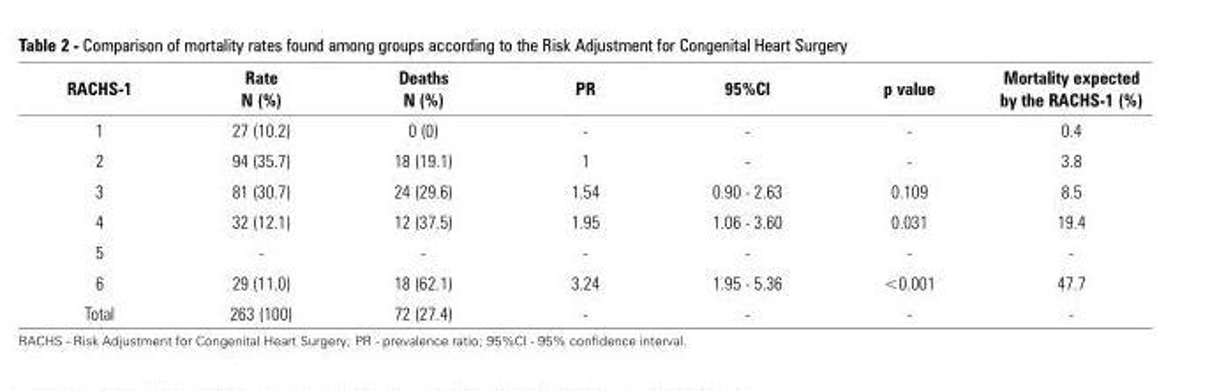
<table><thead><tr><td>RACHS-1</td><td>Rate N (%)</td><td>Deaths N (%)</td><td>PR</td><td>95%CI</td><td>p value</td><td>Mortality expected by the RACHS-1 (%)</td></tr></thead><tbody><tr><td>1</td><td>27 (10.2)</td><td>0 (0)</td><td>-</td><td>-</td><td>-</td><td>0.4</td></tr><tr><td>2</td><td>94 (35.7)</td><td>18 (19.1)</td><td>1</td><td>-</td><td>-</td><td>3.8</td></tr><tr><td>3</td><td>81 (30.7)</td><td>24 (29.6)</td><td>1.54</td><td>0.90 - 2.63</td><td>0.109</td><td>8.5</td></tr><tr><td>4</td><td>32 (12.1)</td><td>12 (37.5)</td><td>1.95</td><td>1.06 - 3.60</td><td>0.031</td><td>19.4</td></tr><tr><td>5</td><td>-</td><td>-</td><td>-</td><td>-</td><td>-</td><td>-</td></tr><tr><td>6</td><td>29 (11.0)</td><td>18 (62.1)</td><td>3.24</td><td>1.95 - 5.36</td><td>&lt;0.001</td><td>47.7</td></tr><tr><td>Total</td><td>263 (100)</td><td>72 (27.4)</td><td>-</td><td>-</td><td>-</td><td>-</td></tr></tbody></table>